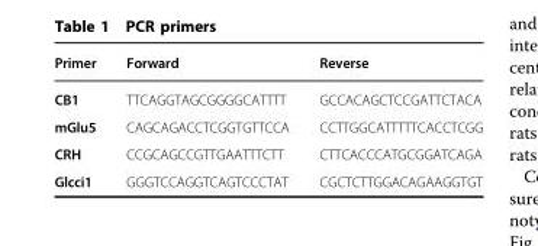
<table><thead><tr><td>Primer</td><td>Forward</td><td>Reverse</td></tr></thead><tbody><tr><td>CB1</td><td>TTCAGGTAGCGGGGCATTTT</td><td>GCCACAGCTCCGATTCTACA</td></tr><tr><td>mGlu5</td><td>CAGCAGACCTCGGTGTTCCA</td><td>CCTTGGCATTTTTCACCTCGG</td></tr><tr><td>CRH</td><td>CCGCAGCCGTTGAATTTCTT</td><td>CTTCACCCATGCGGATCAGA</td></tr><tr><td>Glcci1</td><td>GGGTCCAGGTCAGTCCCTAT</td><td>CGCTCTTGGACAGAAGGTGT</td></tr></tbody></table>